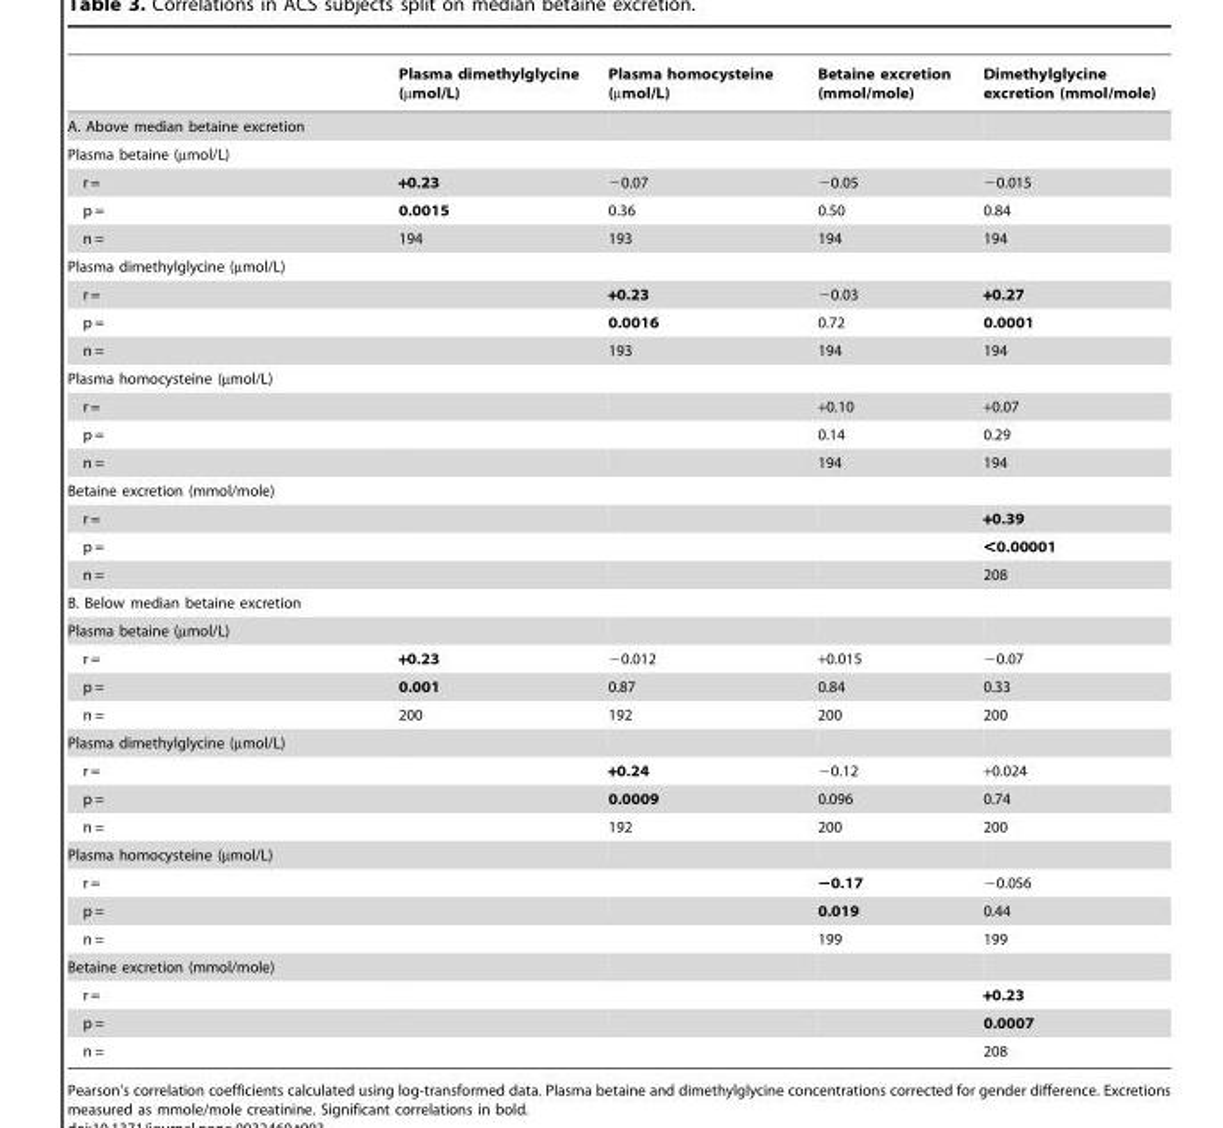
<table><thead><tr><td></td><td>Plasma dimethylglycine (µmol/L)</td><td>Plasma homocysteine (µmol/L)</td><td>Betaine excretion (mmol/mole)</td><td>Dimethylglycine excretion (mmol/mole)</td></tr></thead><tbody><tr><td colspan="5">A. Above median betaine excretion</td></tr><tr><td colspan="5">Plasma betaine (µmol/L)</td></tr><tr><td>r =</td><td>+0.23</td><td>−0.07</td><td>−0.05</td><td>−0.015</td></tr><tr><td>p =</td><td>0.0015</td><td>0.36</td><td>0.50</td><td>0.84</td></tr><tr><td>n =</td><td>194</td><td>193</td><td>194</td><td>194</td></tr><tr><td colspan="5">Plasma dimethylglycine (µmol/L)</td></tr><tr><td>r =</td><td></td><td>+0.23</td><td>−0.03</td><td>+0.27</td></tr><tr><td>p =</td><td></td><td>0.0016</td><td>0.72</td><td>0.0001</td></tr><tr><td>n =</td><td></td><td>193</td><td>194</td><td>194</td></tr><tr><td colspan="5">Plasma homocysteine (µmol/L)</td></tr><tr><td>r =</td><td></td><td></td><td>+0.10</td><td>+0.07</td></tr><tr><td>p =</td><td></td><td></td><td>0.14</td><td>0.29</td></tr><tr><td>n =</td><td></td><td></td><td>194</td><td>194</td></tr><tr><td colspan="5">Betaine excretion (mmol/mole)</td></tr><tr><td>r =</td><td></td><td></td><td></td><td>+0.39</td></tr><tr><td>p =</td><td></td><td></td><td></td><td>&lt;0.00001</td></tr><tr><td>n =</td><td></td><td></td><td></td><td>208</td></tr><tr><td colspan="5">B. Below median betaine excretion</td></tr><tr><td colspan="5">Plasma betaine (µmol/L)</td></tr><tr><td>r =</td><td>+0.23</td><td>−0.012</td><td>+0.015</td><td>−0.07</td></tr><tr><td>p =</td><td>0.001</td><td>0.87</td><td>0.84</td><td>0.33</td></tr><tr><td>n =</td><td>200</td><td>192</td><td>200</td><td>200</td></tr><tr><td colspan="5">Plasma dimethylglycine (µmol/L)</td></tr><tr><td>r =</td><td></td><td>+0.24</td><td>−0.12</td><td>+0.024</td></tr><tr><td>p =</td><td></td><td>0.0009</td><td>0.096</td><td>0.74</td></tr><tr><td>n =</td><td></td><td>192</td><td>200</td><td>200</td></tr><tr><td colspan="5">Plasma homocysteine (µmol/L)</td></tr><tr><td>r =</td><td></td><td></td><td>−0.17</td><td>−0.056</td></tr><tr><td>p =</td><td></td><td></td><td>0.019</td><td>0.44</td></tr><tr><td>n =</td><td></td><td></td><td>199</td><td>199</td></tr><tr><td colspan="5">Betaine excretion (mmol/mole)</td></tr><tr><td>r =</td><td></td><td></td><td></td><td>+0.23</td></tr><tr><td>p =</td><td></td><td></td><td></td><td>0.0007</td></tr><tr><td>n =</td><td></td><td></td><td></td><td>208</td></tr></tbody></table>